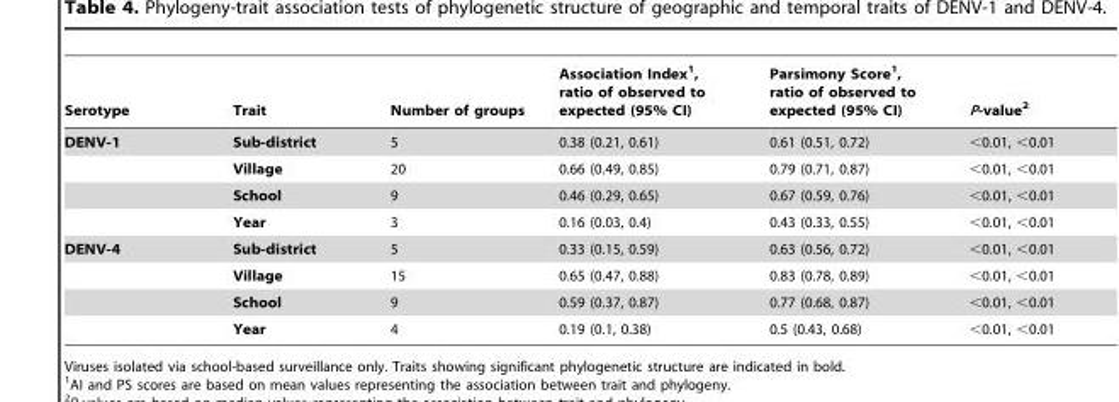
<table><thead><tr><td>Serotype</td><td>Trait</td><td>Number of groups</td><td>Association Index<sup>1</sup>, ratio of observed to expected (95% CI)</td><td>Parsimony Score<sup>1</sup>, ratio of observed to expected (95% CI)</td><td>P-value<sup>2</sup></td></tr></thead><tbody><tr><td rowspan="4">DENV-1</td><td>Sub-district</td><td>5</td><td>0.38 (0.21, 0.61)</td><td>0.61 (0.51, 0.72)</td><td>&lt;0.01, &lt;0.01</td></tr><tr><td>Village</td><td>20</td><td>0.66 (0.49, 0.85)</td><td>0.79 (0.71, 0.87)</td><td>&lt;0.01, &lt;0.01</td></tr><tr><td>School</td><td>9</td><td>0.46 (0.29, 0.65)</td><td>0.67 (0.59, 0.76)</td><td>&lt;0.01, &lt;0.01</td></tr><tr><td>Year</td><td>3</td><td>0.16 (0.03, 0.4)</td><td>0.43 (0.33, 0.55)</td><td>&lt;0.01, &lt;0.01</td></tr><tr><td rowspan="4">DENV-4</td><td>Sub-district</td><td>5</td><td>0.33 (0.15, 0.59)</td><td>0.63 (0.56, 0.72)</td><td>&lt;0.01, &lt;0.01</td></tr><tr><td>Village</td><td>15</td><td>0.65 (0.47, 0.88)</td><td>0.83 (0.78, 0.89)</td><td>&lt;0.01, &lt;0.01</td></tr><tr><td>School</td><td>9</td><td>0.59 (0.37, 0.87)</td><td>0.77 (0.68, 0.87)</td><td>&lt;0.01, &lt;0.01</td></tr><tr><td>Year</td><td>4</td><td>0.19 (0.1, 0.38)</td><td>0.5 (0.43, 0.68)</td><td>&lt;0.01, &lt;0.01</td></tr></tbody></table>